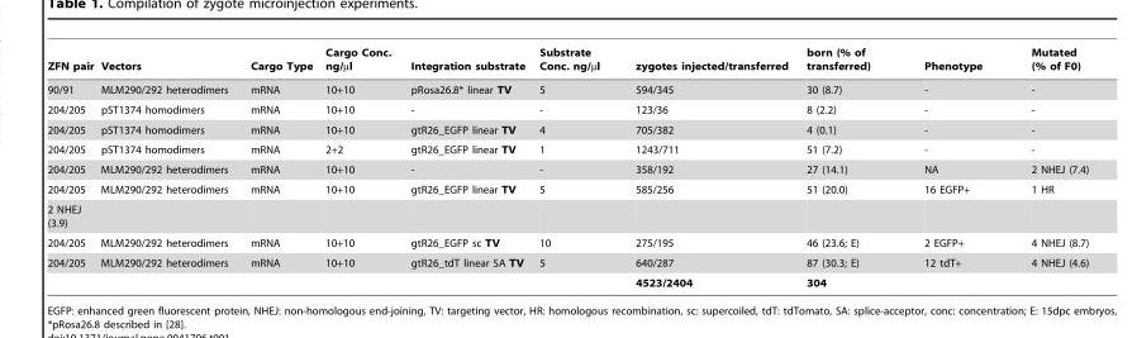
<table><thead><tr><td>ZFN pair</td><td>Vectors</td><td>Cargo Type</td><td>Cargo Conc. ng/µl</td><td>Integration substrate</td><td>Substrate Conc. ng/µl</td><td>zygotes injected/transferred</td><td>born (% of transferred)</td><td>Phenotype</td><td>Mutated (% of F0)</td></tr></thead><tbody><tr><td>90/91</td><td>MLM290/292 heterodimers</td><td>mRNA</td><td>10+10</td><td>pRosa26.8* linear TV</td><td>5</td><td>594/345</td><td>30 (8.7)</td><td>-</td><td>-</td></tr><tr><td>204/205</td><td>pST1374 homodimers</td><td>mRNA</td><td>10+10</td><td>-</td><td>-</td><td>123/36</td><td>8 (2.2)</td><td>-</td><td>-</td></tr><tr><td>204/205</td><td>pST1374 homodimers</td><td>mRNA</td><td>10+10</td><td>gtR26_EGFP linear TV</td><td>4</td><td>705/382</td><td>4 (0.1)</td><td>-</td><td>-</td></tr><tr><td>204/205</td><td>pST1374 homodimers</td><td>mRNA</td><td>2+2</td><td>gtR26_EGFP linear TV</td><td>1</td><td>1243/711</td><td>51 (7.2)</td><td>-</td><td>-</td></tr><tr><td>204/205</td><td>MLM290/292 heterodimers</td><td>mRNA</td><td>10+10</td><td>-</td><td>-</td><td>358/192</td><td>27 (14.1)</td><td>NA</td><td>2 NHEJ (7.4)</td></tr><tr><td>204/205</td><td>MLM290/292 heterodimers</td><td>mRNA</td><td>10+10</td><td>gtR26_EGFP linear TV</td><td>5</td><td>585/256</td><td>51 (20.0)</td><td>16 EGFP+</td><td>1 HR</td></tr><tr><td colspan="10">2 NHEJ (3.9)</td></tr><tr><td>204/205</td><td>MLM290/292 heterodimers</td><td>mRNA</td><td>10+10</td><td>gtR26_EGFP sc TV</td><td>10</td><td>275/195</td><td>46 (23.6; E)</td><td>2 EGFP+</td><td>4 NHEJ (8.7)</td></tr><tr><td rowspan="2">204/205</td><td>MLM290/292 heterodimers</td><td>mRNA</td><td>10+10</td><td>gtR26_tdT linear SA TV</td><td>5</td><td>640/287</td><td>87 (30.3; E)</td><td>12 tdT+</td><td>4 NHEJ (4.6)</td></tr><tr><td></td><td></td><td></td><td></td><td></td><td>4523/2404</td><td>304</td><td></td><td></td></tr></tbody></table>